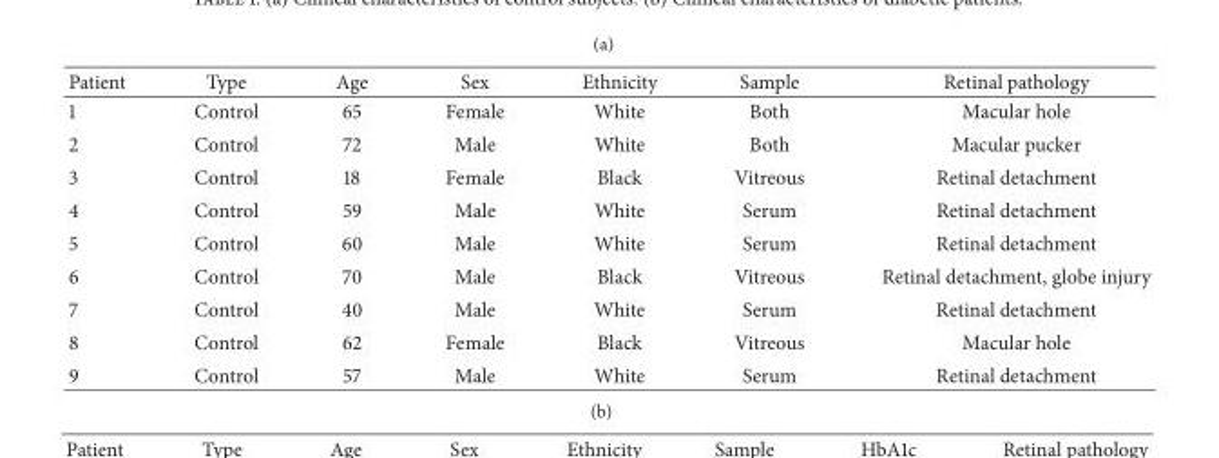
<table><thead><tr><td>Patient</td><td>Type</td><td>Age</td><td>Sex</td><td>Ethnicity</td><td>Sample</td><td>Retinal pathology</td></tr></thead><tbody><tr><td>1</td><td>Control</td><td>65</td><td>Female</td><td>White</td><td>Both</td><td>Macular hole</td></tr><tr><td>2</td><td>Control</td><td>72</td><td>Male</td><td>White</td><td>Both</td><td>Macular pucker</td></tr><tr><td>3</td><td>Control</td><td>18</td><td>Female</td><td>Black</td><td>Vitreous</td><td>Retinal detachment</td></tr><tr><td>4</td><td>Control</td><td>59</td><td>Male</td><td>White</td><td>Serum</td><td>Retinal detachment</td></tr><tr><td>5</td><td>Control</td><td>60</td><td>Male</td><td>White</td><td>Serum</td><td>Retinal detachment</td></tr><tr><td>6</td><td>Control</td><td>70</td><td>Male</td><td>Black</td><td>Vitreous</td><td>Retinal detachment, globe injury</td></tr><tr><td>7</td><td>Control</td><td>40</td><td>Male</td><td>White</td><td>Serum</td><td>Retinal detachment</td></tr><tr><td>8</td><td>Control</td><td>62</td><td>Female</td><td>Black</td><td>Vitreous</td><td>Macular hole</td></tr><tr><td>9</td><td>Control</td><td>57</td><td>Male</td><td>White</td><td>Serum</td><td>Retinal detachment</td></tr></tbody></table>